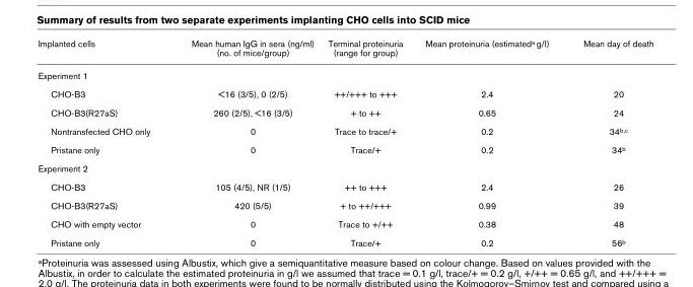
<table><thead><tr><td>Implanted cells</td><td>Mean human IgG in sera (ng/ml) (no. of mice/group)</td><td>Terminal proteinuria (range for group)</td><td>Mean proteinuria (estimateda g/l)</td><td>Mean day of death</td></tr></thead><tbody><tr><td colspan="5">Experiment 1</td></tr><tr><td>CHO-B3</td><td>&lt;16 (3/5), 0 (2/5)</td><td>++/+++ to +++</td><td>2.4</td><td>20</td></tr><tr><td>CHO-B3(R27aS)</td><td>260 (2/5), &lt;16 (3/5)</td><td>+ to ++</td><td>0.65</td><td>24</td></tr><tr><td>Nontransfected CHO only</td><td>0</td><td>Trace to trace/+</td><td>0.2</td><td>34b,c</td></tr><tr><td>Pristane only</td><td>0</td><td>Trace/+</td><td>0.2</td><td>34b</td></tr><tr><td colspan="5">Experiment 2</td></tr><tr><td>CHO-B3</td><td>105 (4/5), NR (1/5)</td><td>++ to +++</td><td>2.4</td><td>26</td></tr><tr><td>CHO-B3(R27aS)</td><td>420 (5/5)</td><td>+ to ++/+++</td><td>0.99</td><td>39</td></tr><tr><td>CHO with empty vector</td><td>0</td><td>Trace to +/++</td><td>0.38</td><td>48</td></tr><tr><td>Pristane only</td><td>0</td><td>Trace/+</td><td>0.2</td><td>56b</td></tr></tbody></table>